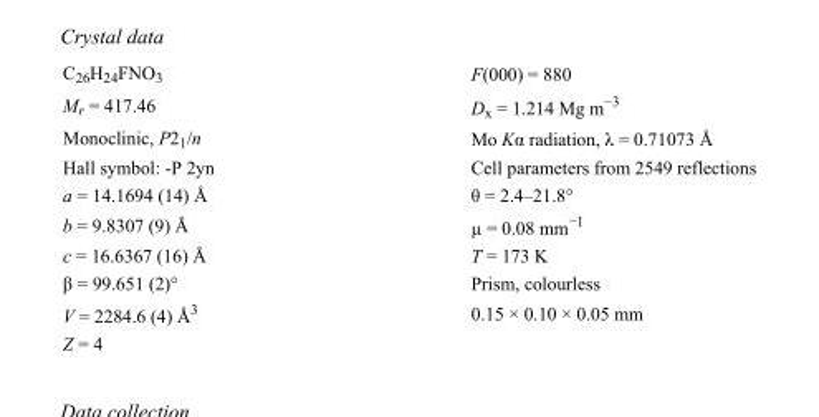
<table><tbody><tr><td>C<sub>26</sub>H<sub>24</sub>FNO<sub>3</sub></td><td>F(000) = 880</td></tr><tr><td>M<sub>r</sub> = 417.46</td><td>D<sub>x</sub> = 1.214 Mg m<sup>−3</sup></td></tr><tr><td>Monoclinic, P2<sub>1</sub>/n</td><td>Mo Kα radiation, λ = 0.71073 Å</td></tr><tr><td>Hall symbol: -P 2yn</td><td>Cell parameters from 2549 reflections</td></tr><tr><td>a = 14.1694 (14) Å</td><td>θ = 2.4–21.8°</td></tr><tr><td>b = 9.8307 (9) Å</td><td>µ = 0.08 mm<sup>−1</sup></td></tr><tr><td>c = 16.6367 (16) Å</td><td>T = 173 K</td></tr><tr><td>β = 99.651 (2)°</td><td>Prism, colourless</td></tr><tr><td>V = 2284.6 (4) Å<sup>3</sup></td><td>0.15 × 0.10 × 0.05 mm</td></tr><tr><td>Z = 4</td><td></td></tr></tbody></table>